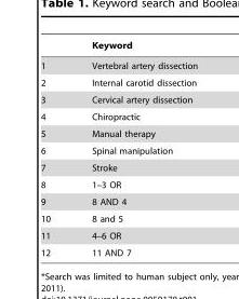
<table><thead><tr><td></td><td>Keyword</td></tr></thead><tbody><tr><td>1</td><td>Vertebral artery dissection</td></tr><tr><td>2</td><td>Internal carotid dissection</td></tr><tr><td>3</td><td>Cervical artery dissection</td></tr><tr><td>4</td><td>Chiropractic</td></tr><tr><td>5</td><td>Manual therapy</td></tr><tr><td>6</td><td>Spinal manipulation</td></tr><tr><td>7</td><td>Stroke</td></tr><tr><td>8</td><td>1–3 OR</td></tr><tr><td>9</td><td>8 AND 4</td></tr><tr><td>10</td><td>8 and 5</td></tr><tr><td>11</td><td>4–6 OR</td></tr><tr><td>12</td><td>11 AND 7</td></tr></tbody></table>